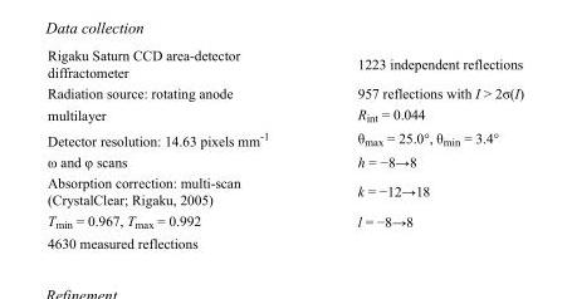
<table><tbody><tr><td>Rigaku Saturn CCD area-detector diffractometer</td><td>1223 independent reflections</td></tr><tr><td>Radiation source: rotating anode</td><td>957 reflections with I &gt; 2σ(I)</td></tr><tr><td>multilayer</td><td>R<sub>int</sub> = 0.044</td></tr><tr><td>Detector resolution: 14.63 pixels mm<sup>-1</sup></td><td>θ<sub>max</sub> = 25.0°, θ<sub>min</sub> = 3.4°</td></tr><tr><td>ω and φ scans</td><td>h = −8→8</td></tr><tr><td>Absorption correction: multi-scan (CrystalClear; Rigaku, 2005)</td><td>k = −12→18</td></tr><tr><td>T<sub>min</sub> = 0.967, T<sub>max</sub> = 0.992</td><td>l = −8→8</td></tr><tr><td>4630 measured reflections</td><td></td></tr></tbody></table>